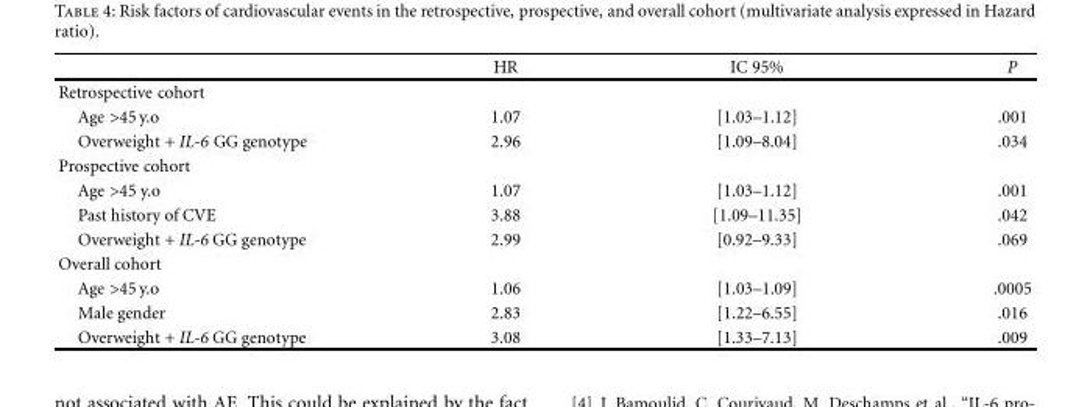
<table><thead><tr><td></td><td>HR</td><td>IC 95%</td><td>P</td></tr></thead><tbody><tr><td colspan="4">Retrospective cohort</td></tr><tr><td>Age &gt;45 y.o</td><td>1.07</td><td>[1.03–1.12]</td><td>.001</td></tr><tr><td>Overweight + IL-6 GG genotype</td><td>2.96</td><td>[1.09–8.04]</td><td>.034</td></tr><tr><td colspan="4">Prospective cohort</td></tr><tr><td>Age &gt;45 y.o</td><td>1.07</td><td>[1.03–1.12]</td><td>.001</td></tr><tr><td>Past history of CVE</td><td>3.88</td><td>[1.09–11.35]</td><td>.042</td></tr><tr><td>Overweight + IL-6 GG genotype</td><td>2.99</td><td>[0.92–9.33]</td><td>.069</td></tr><tr><td colspan="4">Overall cohort</td></tr><tr><td>Age &gt;45 y.o</td><td>1.06</td><td>[1.03–1.09]</td><td>.0005</td></tr><tr><td>Male gender</td><td>2.83</td><td>[1.22–6.55]</td><td>.016</td></tr><tr><td>Overweight + IL-6 GG genotype</td><td>3.08</td><td>[1.33–7.13]</td><td>.009</td></tr></tbody></table>